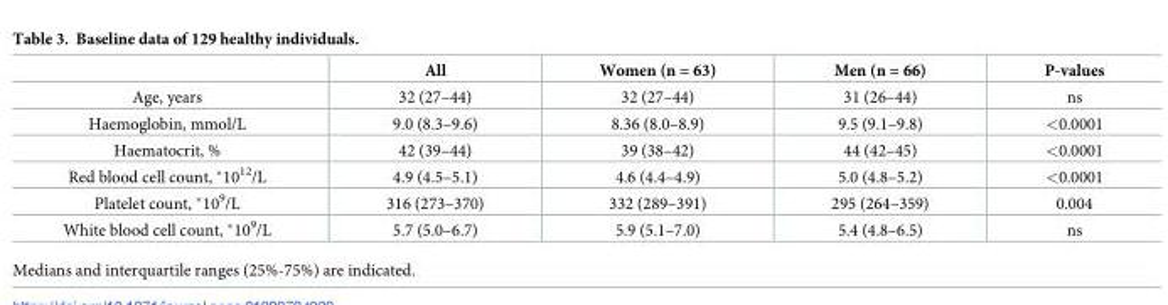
<table><thead><tr><td></td><td>All</td><td>Women (n = 63)</td><td>Men (n = 66)</td><td>P-values</td></tr></thead><tbody><tr><td>Age, years</td><td>32 (27–44)</td><td>32 (27–44)</td><td>31 (26–44)</td><td>ns</td></tr><tr><td>Haemoglobin, mmol/L</td><td>9.0 (8.3–9.6)</td><td>8.36 (8.0–8.9)</td><td>9.5 (9.1–9.8)</td><td>&lt;0.0001</td></tr><tr><td>Haematocrit, %</td><td>42 (39–44)</td><td>39 (38–42)</td><td>44 (42–45)</td><td>&lt;0.0001</td></tr><tr><td>Red blood cell count, *10<sup>12</sup>/L</td><td>4.9 (4.5–5.1)</td><td>4.6 (4.4–4.9)</td><td>5.0 (4.8–5.2)</td><td>&lt;0.0001</td></tr><tr><td>Platelet count, *10<sup>9</sup>/L</td><td>316 (273–370)</td><td>332 (289–391)</td><td>295 (264–359)</td><td>0.004</td></tr><tr><td>White blood cell count, *10<sup>9</sup>/L</td><td>5.7 (5.0–6.7)</td><td>5.9 (5.1–7.0)</td><td>5.4 (4.8–6.5)</td><td>ns</td></tr></tbody></table>